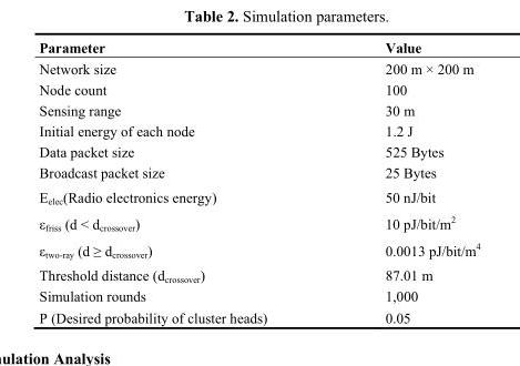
<table><thead><tr><td>Parameter</td><td>Value</td></tr></thead><tbody><tr><td>Network size</td><td>200 m × 200 m</td></tr><tr><td>Node count</td><td>100</td></tr><tr><td>Sensing range</td><td>30 m</td></tr><tr><td>Initial energy of each node</td><td>1.2 J</td></tr><tr><td>Data packet size</td><td>525 Bytes</td></tr><tr><td>Broadcast packet size</td><td>25 Bytes</td></tr><tr><td>E<sub>elec</sub>(Radio electronics energy)</td><td>50 nJ/bit</td></tr><tr><td>ε<sub>friss</sub> (d &lt; d<sub>crossover</sub>)</td><td>10 pJ/bit/m<sup>2</sup></td></tr><tr><td>ε<sub>two-ray</sub> (d ≥ d<sub>crossover</sub>)</td><td>0.0013 pJ/bit/m<sup>4</sup></td></tr><tr><td>Threshold distance (d<sub>crossover</sub>)</td><td>87.01 m</td></tr><tr><td>Simulation rounds</td><td>1,000</td></tr><tr><td>P (Desired probability of cluster heads)</td><td>0.05</td></tr></tbody></table>